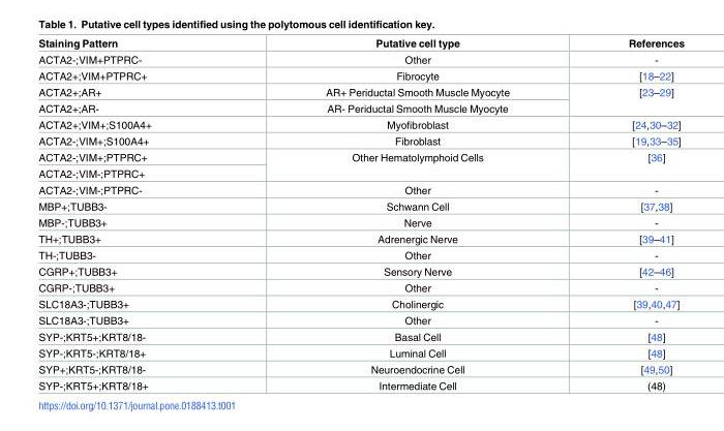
<table><thead><tr><td>Staining Pattern</td><td>Putative cell type</td><td>References</td></tr></thead><tbody><tr><td>ACTA2-;VIM+PTPRC-</td><td>Other</td><td>-</td></tr><tr><td>ACTA2+;VIM+PTPRC+</td><td>Fibrocyte</td><td>[18–22]</td></tr><tr><td>ACTA2+;AR+</td><td>AR+ Periductal Smooth Muscle Myocyte</td><td rowspan="2">[23–29]</td></tr><tr><td>ACTA2+;AR-</td><td>AR- Periductal Smooth Muscle Myocyte</td></tr><tr><td>ACTA2+;VIM+;S100A4+</td><td>Myofibroblast</td><td>[24,30–32]</td></tr><tr><td>ACTA2-;VIM+;S100A4+</td><td>Fibroblast</td><td>[19,33–35]</td></tr><tr><td>ACTA2-;VIM+;PTPRC+</td><td rowspan="2">Other Hematolymphoid Cells</td><td rowspan="2">[36]</td></tr><tr><td>ACTA2-;VIM-;PTPRC+</td></tr><tr><td>ACTA2-;VIM-;PTPRC-</td><td>Other</td><td>-</td></tr><tr><td>MBP+;TUBB3-</td><td>Schwann Cell</td><td>[37,38]</td></tr><tr><td>MBP-;TUBB3+</td><td>Nerve</td><td>-</td></tr><tr><td>TH+;TUBB3+</td><td>Adrenergic Nerve</td><td>[39–41]</td></tr><tr><td>TH-;TUBB3-</td><td>Other</td><td>-</td></tr><tr><td>CGRP+;TUBB3+</td><td>Sensory Nerve</td><td>[42–46]</td></tr><tr><td>CGRP-;TUBB3+</td><td>Other</td><td>-</td></tr><tr><td>SLC18A3-;TUBB3+</td><td>Cholinergic</td><td>[39,40,47]</td></tr><tr><td>SLC18A3-;TUBB3+</td><td>Other</td><td>-</td></tr><tr><td>SYP-;KRT5+;KRT8/18-</td><td>Basal Cell</td><td>[48]</td></tr><tr><td>SYP-;KRT5-;KRT8/18+</td><td>Luminal Cell</td><td>[48]</td></tr><tr><td>SYP+;KRT5-;KRT8/18-</td><td>Neuroendocrine Cell</td><td>[49,50]</td></tr><tr><td>SYP-;KRT5+;KRT8/18+</td><td>Intermediate Cell</td><td>(48)</td></tr></tbody></table>